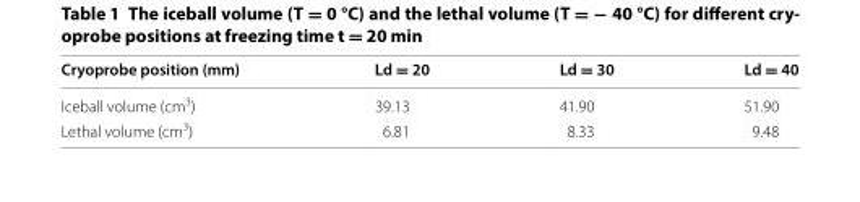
<table><thead><tr><td>Cryoprobe position (mm)</td><td>Ld = 20</td><td>Ld = 30</td><td>Ld = 40</td></tr></thead><tbody><tr><td>Iceball volume (cm<sup>3</sup>)</td><td>39.13</td><td>41.90</td><td>51.90</td></tr><tr><td>Lethal volume (cm<sup>3</sup>)</td><td>6.81</td><td>8.33</td><td>9.48</td></tr></tbody></table>